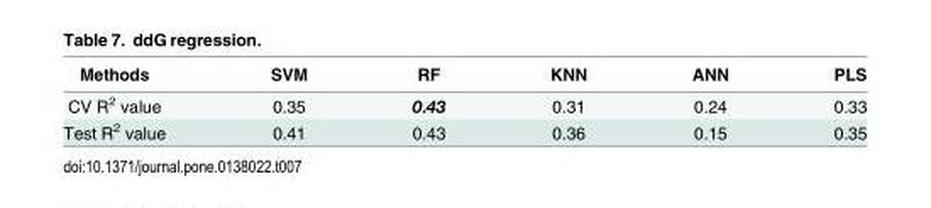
<table><thead><tr><td>Methods</td><td>SVM</td><td>RF</td><td>KNN</td><td>ANN</td><td>PLS</td></tr></thead><tbody><tr><td>CV R<sup>2</sup> value</td><td>0.35</td><td>0.43</td><td>0.31</td><td>0.24</td><td>0.33</td></tr><tr><td>Test R<sup>2</sup> value</td><td>0.41</td><td>0.43</td><td>0.36</td><td>0.15</td><td>0.35</td></tr></tbody></table>